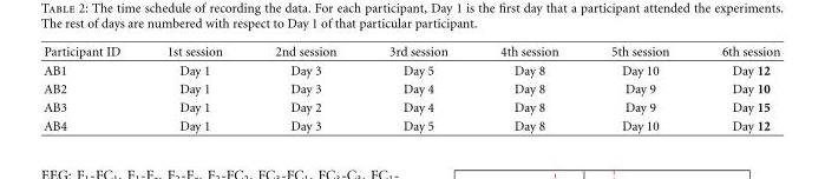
<table><thead><tr><td>Participant ID</td><td>1st session</td><td>2nd session</td><td>3rd session</td><td>4th session</td><td>5th session</td><td>6th session</td></tr></thead><tbody><tr><td>AB1</td><td>Day 1</td><td>Day 3</td><td>Day 5</td><td>Day 8</td><td>Day 10</td><td>Day 12</td></tr><tr><td>AB2</td><td>Day 1</td><td>Day 3</td><td>Day 4</td><td>Day 8</td><td>Day 9</td><td>Day 10</td></tr><tr><td>AB3</td><td>Day 1</td><td>Day 2</td><td>Day 4</td><td>Day 8</td><td>Day 9</td><td>Day 15</td></tr><tr><td>AB4</td><td>Day 1</td><td>Day 3</td><td>Day 5</td><td>Day 8</td><td>Day 10</td><td>Day 12</td></tr></tbody></table>